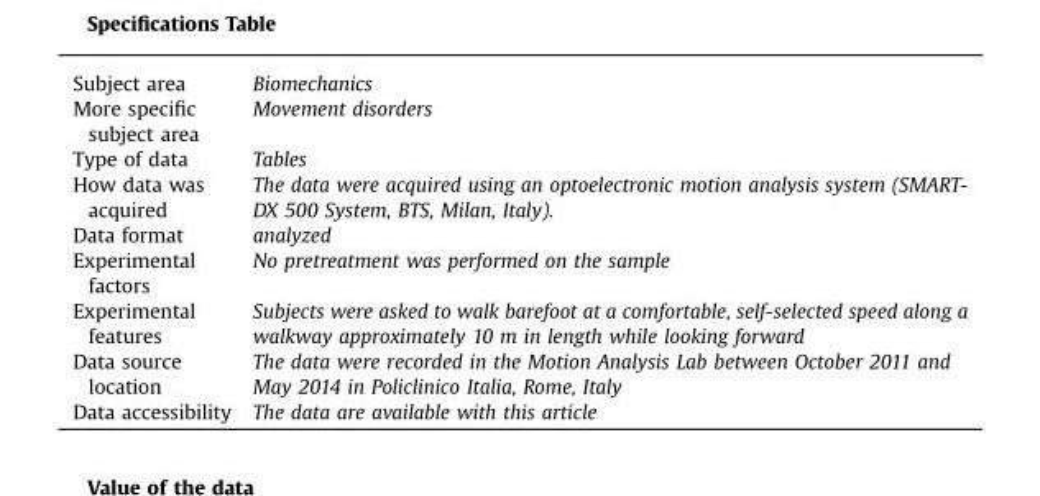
<table><tbody><tr><td>Subject area</td><td>Biomechanics</td></tr><tr><td>More specific subject area</td><td>Movement disorders</td></tr><tr><td>Type of data</td><td>Tables</td></tr><tr><td>How data was acquired</td><td>The data were acquired using an optoelectronic motion analysis system (SMART- DX 500 System, BTS, Milan, Italy).</td></tr><tr><td>Data format</td><td>analyzed</td></tr><tr><td>Experimental factors</td><td>No pretreatment was performed on the sample</td></tr><tr><td>Experimental features</td><td>Subjects were asked to walk barefoot at a comfortable, self-selected speed along a walkway approximately 10 m in length while looking forward</td></tr><tr><td>Data source location</td><td>The data were recorded in the Motion Analysis Lab between October 2011 and May 2014 in Policlinico Italia, Rome, Italy</td></tr><tr><td>Data accessibility</td><td>The data are available with this article</td></tr></tbody></table>